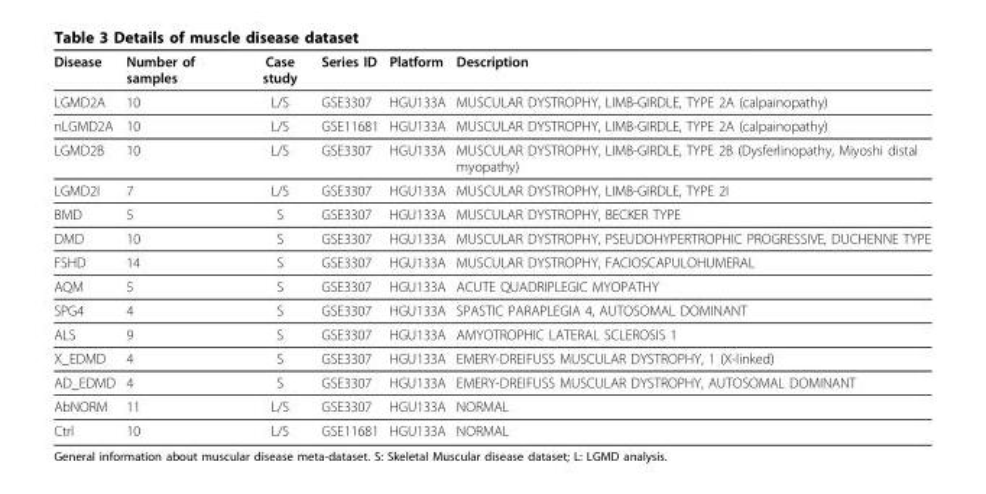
<table><thead><tr><td>Disease</td><td>Number of samples</td><td>Case study</td><td>Series ID</td><td>Platform</td><td>Description</td></tr></thead><tbody><tr><td>LGMD2A</td><td>10</td><td>L/S</td><td>GSE3307</td><td>HGU133A</td><td>MUSCULAR DYSTROPHY, LIMB-GIRDLE, TYPE 2A (calpainopathy)</td></tr><tr><td>nLGMD2A</td><td>10</td><td>L/S</td><td>GSE11681</td><td>HGU133A</td><td>MUSCULAR DYSTROPHY, LIMB-GIRDLE, TYPE 2A (calpainopathy)</td></tr><tr><td>LGMD2B</td><td>10</td><td>L/S</td><td>GSE3307</td><td>HGU133A</td><td>MUSCULAR DYSTROPHY, LIMB-GIRDLE, TYPE 2B (Dysferlinopathy, Miyoshi distal myopathy)</td></tr><tr><td>LGMD2I</td><td>7</td><td>L/S</td><td>GSE3307</td><td>HGU133A</td><td>MUSCULAR DYSTROPHY, LIMB-GIRDLE, TYPE 2I</td></tr><tr><td>BMD</td><td>5</td><td>S</td><td>GSE3307</td><td>HGU133A</td><td>MUSCULAR DYSTROPHY, BECKER TYPE</td></tr><tr><td>DMD</td><td>10</td><td>S</td><td>GSE3307</td><td>HGU133A</td><td>MUSCULAR DYSTROPHY, PSEUDOHYPERTROPHIC PROGRESSIVE, DUCHENNE TYPE</td></tr><tr><td>FSHD</td><td>14</td><td>S</td><td>GSE3307</td><td>HGU133A</td><td>MUSCULAR DYSTROPHY, FACIOSCAPULOHUMERAL</td></tr><tr><td>AQM</td><td>5</td><td>S</td><td>GSE3307</td><td>HGU133A</td><td>ACUTE QUADRIPLEGIC MYOPATHY</td></tr><tr><td>SPG4</td><td>4</td><td>S</td><td>GSE3307</td><td>HGU133A</td><td>SPASTIC PARAPLEGIA 4, AUTOSOMAL DOMINANT</td></tr><tr><td>ALS</td><td>9</td><td>S</td><td>GSE3307</td><td>HGU133A</td><td>AMYOTROPHIC LATERAL SCLEROSIS 1</td></tr><tr><td>X_EDMD</td><td>4</td><td>S</td><td>GSE3307</td><td>HGU133A</td><td>EMERY-DREIFUSS MUSCULAR DYSTROPHY, 1 (X-linked)</td></tr><tr><td>AD_EDMD</td><td>4</td><td>S</td><td>GSE3307</td><td>HGU133A</td><td>EMERY-DREIFUSS MUSCULAR DYSTROPHY, AUTOSOMAL DOMINANT</td></tr><tr><td>AbNORM</td><td>11</td><td>L/S</td><td>GSE3307</td><td>HGU133A</td><td>NORMAL</td></tr><tr><td>Ctrl</td><td>10</td><td>L/S</td><td>GSE11681</td><td>HGU133A</td><td>NORMAL</td></tr></tbody></table>